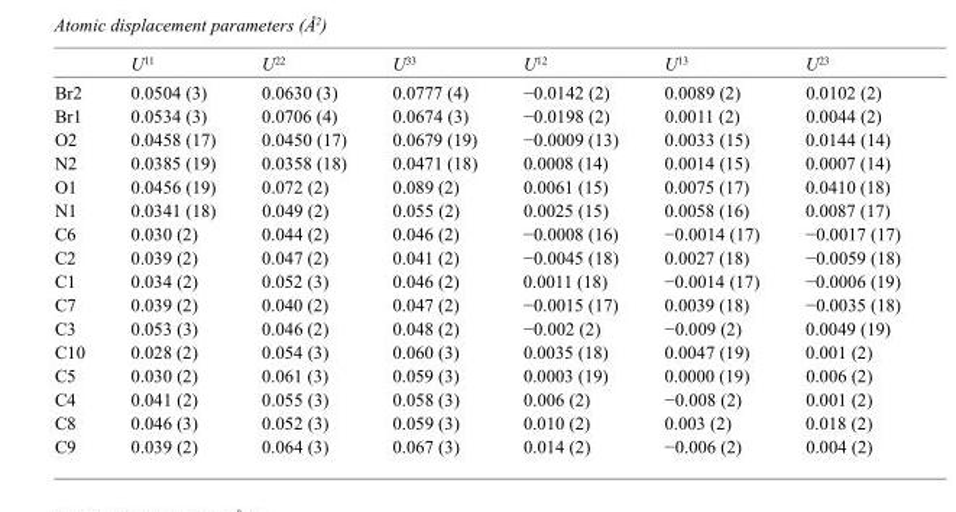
<table><thead><tr><td></td><td>U<sup>11</sup></td><td>U<sup>22</sup></td><td>U<sup>33</sup></td><td>U<sup>12</sup></td><td>U<sup>13</sup></td><td>U<sup>23</sup></td></tr></thead><tbody><tr><td>Br2</td><td>0.0504 (3)</td><td>0.0630 (3)</td><td>0.0777 (4)</td><td>−0.0142 (2)</td><td>0.0089 (2)</td><td>0.0102 (2)</td></tr><tr><td>Br1</td><td>0.0534 (3)</td><td>0.0706 (4)</td><td>0.0674 (3)</td><td>−0.0198 (2)</td><td>0.0011 (2)</td><td>0.0044 (2)</td></tr><tr><td>O2</td><td>0.0458 (17)</td><td>0.0450 (17)</td><td>0.0679 (19)</td><td>−0.0009 (13)</td><td>0.0033 (15)</td><td>0.0144 (14)</td></tr><tr><td>N2</td><td>0.0385 (19)</td><td>0.0358 (18)</td><td>0.0471 (18)</td><td>0.0008 (14)</td><td>0.0014 (15)</td><td>0.0007 (14)</td></tr><tr><td>O1</td><td>0.0456 (19)</td><td>0.072 (2)</td><td>0.089 (2)</td><td>0.0061 (15)</td><td>0.0075 (17)</td><td>0.0410 (18)</td></tr><tr><td>N1</td><td>0.0341 (18)</td><td>0.049 (2)</td><td>0.055 (2)</td><td>0.0025 (15)</td><td>0.0058 (16)</td><td>0.0087 (17)</td></tr><tr><td>C6</td><td>0.030 (2)</td><td>0.044 (2)</td><td>0.046 (2)</td><td>−0.0008 (16)</td><td>−0.0014 (17)</td><td>−0.0017 (17)</td></tr><tr><td>C2</td><td>0.039 (2)</td><td>0.047 (2)</td><td>0.041 (2)</td><td>−0.0045 (18)</td><td>0.0027 (18)</td><td>−0.0059 (18)</td></tr><tr><td>C1</td><td>0.034 (2)</td><td>0.052 (3)</td><td>0.046 (2)</td><td>0.0011 (18)</td><td>−0.0014 (17)</td><td>−0.0006 (19)</td></tr><tr><td>C7</td><td>0.039 (2)</td><td>0.040 (2)</td><td>0.047 (2)</td><td>−0.0015 (17)</td><td>0.0039 (18)</td><td>−0.0035 (18)</td></tr><tr><td>C3</td><td>0.053 (3)</td><td>0.046 (2)</td><td>0.048 (2)</td><td>−0.002 (2)</td><td>−0.009 (2)</td><td>0.0049 (19)</td></tr><tr><td>C10</td><td>0.028 (2)</td><td>0.054 (3)</td><td>0.060 (3)</td><td>0.0035 (18)</td><td>0.0047 (19)</td><td>0.001 (2)</td></tr><tr><td>C5</td><td>0.030 (2)</td><td>0.061 (3)</td><td>0.059 (3)</td><td>0.0003 (19)</td><td>0.0000 (19)</td><td>0.006 (2)</td></tr><tr><td>C4</td><td>0.041 (2)</td><td>0.055 (3)</td><td>0.058 (3)</td><td>0.006 (2)</td><td>−0.008 (2)</td><td>0.001 (2)</td></tr><tr><td>C8</td><td>0.046 (3)</td><td>0.052 (3)</td><td>0.059 (3)</td><td>0.010 (2)</td><td>0.003 (2)</td><td>0.018 (2)</td></tr><tr><td>C9</td><td>0.039 (2)</td><td>0.064 (3)</td><td>0.067 (3)</td><td>0.014 (2)</td><td>−0.006 (2)</td><td>0.004 (2)</td></tr></tbody></table>